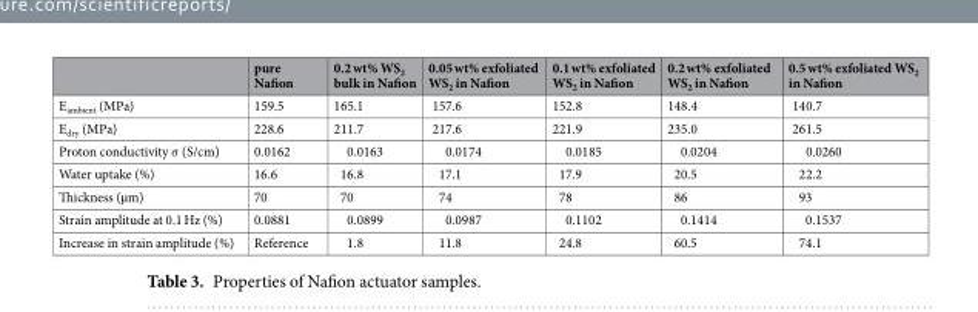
<table><thead><tr><td></td><td>pure Nafion</td><td>0.2 wt% WS<sub>2</sub> bulk in Nafion</td><td>0.05 wt% exfoliated WS<sub>2</sub> in Nafion</td><td>0.1 wt% exfoliated WS<sub>2</sub> in Nafion</td><td>0.2 wt% exfoliated WS<sub>2</sub> in Nafion</td><td>0.5 wt% exfoliated WS<sub>2</sub> in Nafion</td></tr></thead><tbody><tr><td>E<sub>ambient</sub> (MPa)</td><td>159.5</td><td>165.1</td><td>157.6</td><td>152.8</td><td>148.4</td><td>140.7</td></tr><tr><td>E<sub>dry</sub> (MPa)</td><td>228.6</td><td>211.7</td><td>217.6</td><td>221.9</td><td>235.0</td><td>261.5</td></tr><tr><td>Proton conductivity σ (S/cm)</td><td>0.0162</td><td>0.0163</td><td>0.0174</td><td>0.0185</td><td>0.0204</td><td>0.0260</td></tr><tr><td>Water uptake (%)</td><td>16.6</td><td>16.8</td><td>17.1</td><td>17.9</td><td>20.5</td><td>22.2</td></tr><tr><td>Thickness (µm)</td><td>70</td><td>70</td><td>74</td><td>78</td><td>86</td><td>93</td></tr><tr><td>Strain amplitude at 0.1 Hz (%)</td><td>0.0881</td><td>0.0899</td><td>0.0987</td><td>0.1102</td><td>0.1414</td><td>0.1537</td></tr><tr><td>Increase in strain amplitude (%)</td><td>Reference</td><td>1.8</td><td>11.8</td><td>24.8</td><td>60.5</td><td>74.1</td></tr></tbody></table>